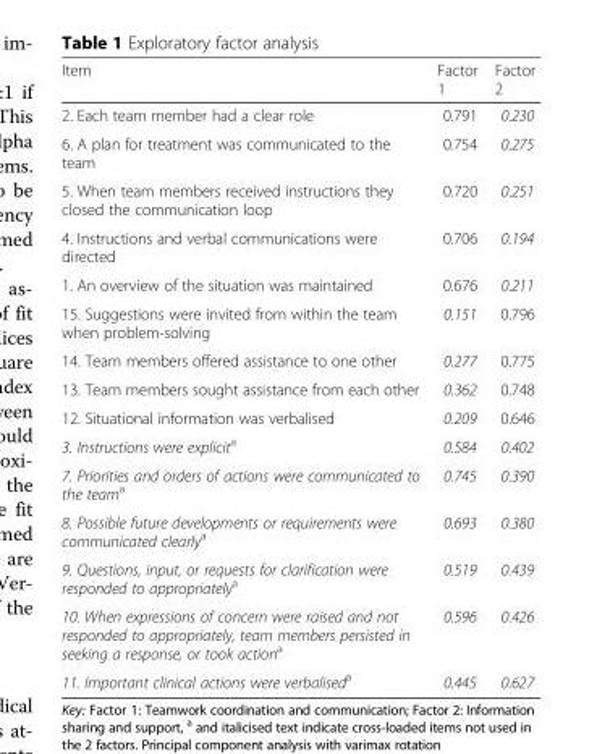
<table><thead><tr><td>Item</td><td>Factor 1</td><td>Factor 2</td></tr></thead><tbody><tr><td>2. Each team member had a clear role</td><td>0.791</td><td>0.230</td></tr><tr><td>6. A plan for treatment was communicated to the team</td><td>0.754</td><td>0.275</td></tr><tr><td>5. When team members received instructions they closed the communication loop</td><td>0.720</td><td>0.251</td></tr><tr><td>4. Instructions and verbal communications were directed</td><td>0.706</td><td>0.194</td></tr><tr><td>1. An overview of the situation was maintained</td><td>0.676</td><td>0.211</td></tr><tr><td>15. Suggestions were invited from within the team when problem-solving</td><td>0.151</td><td>0.796</td></tr><tr><td>14. Team members offered assistance to one other</td><td>0.277</td><td>0.775</td></tr><tr><td>13. Team members sought assistance from each other</td><td>0.362</td><td>0.748</td></tr><tr><td>12. Situational information was verbalised</td><td>0.209</td><td>0.646</td></tr><tr><td>3. Instructions were explicit<sup>a</sup></td><td>0.584</td><td>0.402</td></tr><tr><td>7. Priorities and orders of actions were communicated to the team<sup>a</sup></td><td>0.745</td><td>0.390</td></tr><tr><td>8. Possible future developments or requirements were communicated clearly<sup>a</sup></td><td>0.693</td><td>0.380</td></tr><tr><td>9. Questions, input, or requests for clarification were responded to appropriately<sup>a</sup></td><td>0.519</td><td>0.439</td></tr><tr><td>10. When expressions of concern were raised and not responded to appropriately, team members persisted in seeking a response, or took action<sup>a</sup></td><td>0.596</td><td>0.426</td></tr><tr><td>11. Important clinical actions were verbalised<sup>a</sup></td><td>0.445</td><td>0.627</td></tr></tbody></table>